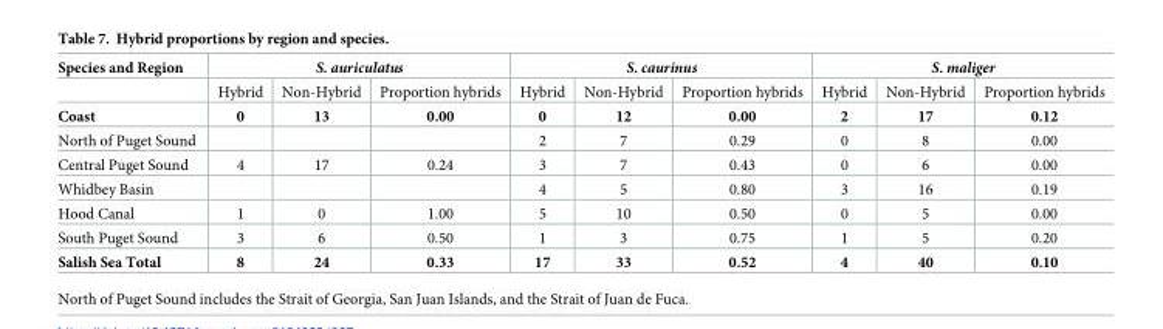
<table><thead><tr><td rowspan="2">Species and Region</td><td colspan="3">S. auriculatus</td><td colspan="3">S. caurinus</td><td colspan="3">S. maliger</td></tr><tr><td>Hybrid</td><td>Non-Hybrid</td><td>Proportion hybrids</td><td>Hybrid</td><td>Non-Hybrid</td><td>Proportion hybrids</td><td>Hybrid</td><td>Non-Hybrid</td><td>Proportion hybrids</td></tr></thead><tbody><tr><td>Coast</td><td>0</td><td>13</td><td>0.00</td><td>0</td><td>12</td><td>0.00</td><td>2</td><td>17</td><td>0.12</td></tr><tr><td>North of Puget Sound</td><td></td><td></td><td></td><td>2</td><td>7</td><td>0.29</td><td>0</td><td>8</td><td>0.00</td></tr><tr><td>Central Puget Sound</td><td>4</td><td>17</td><td>0.24</td><td>3</td><td>7</td><td>0.43</td><td>0</td><td>6</td><td>0.00</td></tr><tr><td>Whidbey Basin</td><td></td><td></td><td></td><td>4</td><td>5</td><td>0.80</td><td>3</td><td>16</td><td>0.19</td></tr><tr><td>Hood Canal</td><td>1</td><td>0</td><td>1.00</td><td>5</td><td>10</td><td>0.50</td><td>0</td><td>5</td><td>0.00</td></tr><tr><td>South Puget Sound</td><td>3</td><td>6</td><td>0.50</td><td>1</td><td>3</td><td>0.75</td><td>1</td><td>5</td><td>0.20</td></tr><tr><td>Salish Sea Total</td><td>8</td><td>24</td><td>0.33</td><td>17</td><td>33</td><td>0.52</td><td>4</td><td>40</td><td>0.10</td></tr></tbody></table>